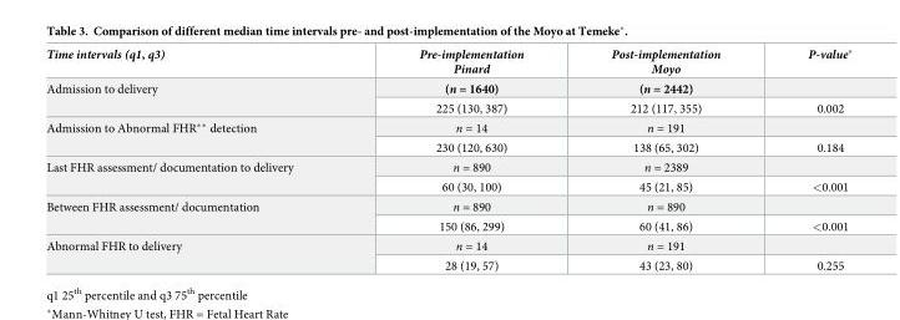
<table><thead><tr><td>Time intervals (q1, q3)</td><td>Pre-implementation Pinard</td><td>Post-implementation Moyo</td><td>P-value*</td></tr></thead><tbody><tr><td rowspan="2">Admission to delivery</td><td>(n = 1640)</td><td>(n = 2442)</td><td></td></tr><tr><td>225 (130, 387)</td><td>212 (117, 355)</td><td>0.002</td></tr><tr><td rowspan="2">Admission to Abnormal FHR** detection</td><td>n = 14</td><td>n = 191</td><td></td></tr><tr><td>230 (120, 630)</td><td>138 (65, 302)</td><td>0.184</td></tr><tr><td rowspan="2">Last FHR assessment/ documentation to delivery</td><td>n = 890</td><td>n = 2389</td><td></td></tr><tr><td>60 (30, 100)</td><td>45 (21, 85)</td><td>&lt;0.001</td></tr><tr><td rowspan="2">Between FHR assessment/ documentation</td><td>n = 890</td><td>n = 890</td><td></td></tr><tr><td>150 (86, 299)</td><td>60 (41, 86)</td><td>&lt;0.001</td></tr><tr><td rowspan="2">Abnormal FHR to delivery</td><td>n = 14</td><td>n = 191</td><td></td></tr><tr><td>28 (19, 57)</td><td>43 (23, 80)</td><td>0.255</td></tr></tbody></table>